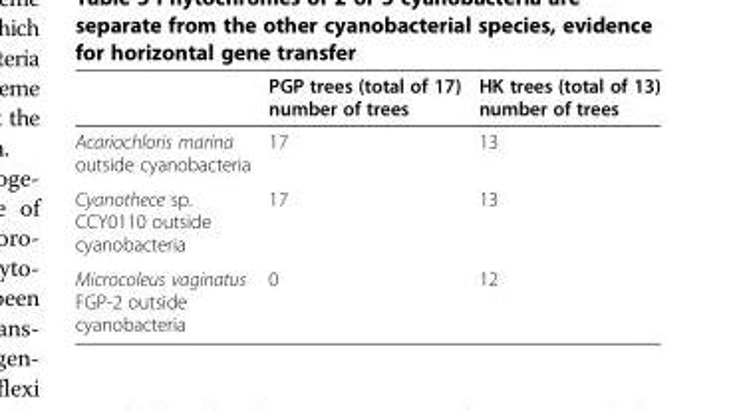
<table><thead><tr><td></td><td>PGP trees (total of 17) number of trees</td><td>HK trees (total of 13) number of trees</td></tr></thead><tbody><tr><td>Acariochloris marina outside cyanobacteria</td><td>17</td><td>13</td></tr><tr><td>Cyanothece sp. CCY0110 outside cyanobacteria</td><td>17</td><td>13</td></tr><tr><td>Microcoleus vaginatus FGP-2 outside cyanobacteria</td><td>0</td><td>12</td></tr></tbody></table>